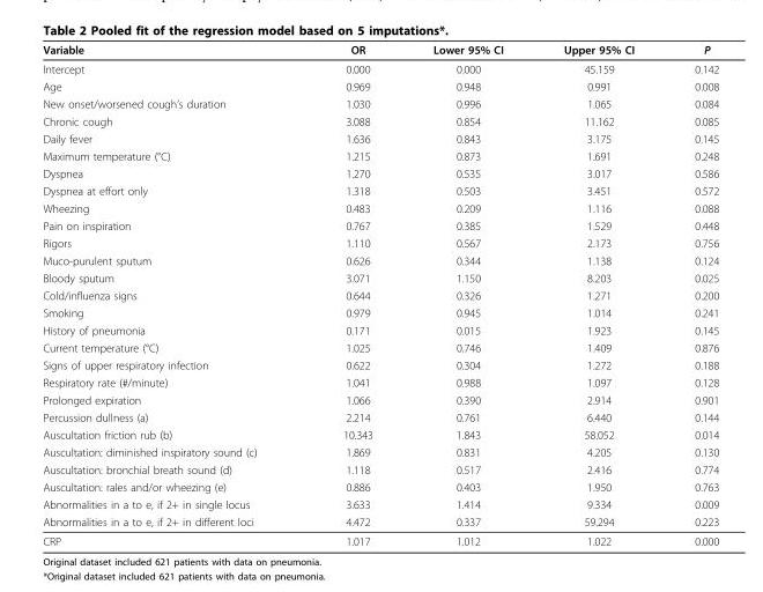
<table><thead><tr><td>Variable</td><td>OR</td><td>Lower 95% CI</td><td>Upper 95% CI</td><td>P</td></tr></thead><tbody><tr><td>Intercept</td><td>0.000</td><td>0.000</td><td>45.159</td><td>0.142</td></tr><tr><td>Age</td><td>0.969</td><td>0.948</td><td>0.991</td><td>0.008</td></tr><tr><td>New onset/worsened cough’s duration</td><td>1.030</td><td>0.996</td><td>1.065</td><td>0.084</td></tr><tr><td>Chronic cough</td><td>3.088</td><td>0.854</td><td>11.162</td><td>0.085</td></tr><tr><td>Daily fever</td><td>1.636</td><td>0.843</td><td>3.175</td><td>0.145</td></tr><tr><td>Maximum temperature (°C)</td><td>1.215</td><td>0.873</td><td>1.691</td><td>0.248</td></tr><tr><td>Dyspnea</td><td>1.270</td><td>0.535</td><td>3.017</td><td>0.586</td></tr><tr><td>Dyspnea at effort only</td><td>1.318</td><td>0.503</td><td>3.451</td><td>0.572</td></tr><tr><td>Wheezing</td><td>0.483</td><td>0.209</td><td>1.116</td><td>0.088</td></tr><tr><td>Pain on inspiration</td><td>0.767</td><td>0.385</td><td>1.529</td><td>0.448</td></tr><tr><td>Rigors</td><td>1.110</td><td>0.567</td><td>2.173</td><td>0.756</td></tr><tr><td>Muco-purulent sputum</td><td>0.626</td><td>0.344</td><td>1.138</td><td>0.124</td></tr><tr><td>Bloody sputum</td><td>3.071</td><td>1.150</td><td>8.203</td><td>0.025</td></tr><tr><td>Cold/influenza signs</td><td>0.644</td><td>0.326</td><td>1.271</td><td>0.200</td></tr><tr><td>Smoking</td><td>0.979</td><td>0.945</td><td>1.014</td><td>0.241</td></tr><tr><td>History of pneumonia</td><td>0.171</td><td>0.015</td><td>1.923</td><td>0.145</td></tr><tr><td>Current temperature (°C)</td><td>1.025</td><td>0.746</td><td>1.409</td><td>0.876</td></tr><tr><td>Signs of upper respiratory infection</td><td>0.622</td><td>0.304</td><td>1.272</td><td>0.188</td></tr><tr><td>Respiratory rate (#/minute)</td><td>1.041</td><td>0.988</td><td>1.097</td><td>0.128</td></tr><tr><td>Prolonged expiration</td><td>1.066</td><td>0.390</td><td>2.914</td><td>0.901</td></tr><tr><td>Percussion dullness (a)</td><td>2.214</td><td>0.761</td><td>6.440</td><td>0.144</td></tr><tr><td>Auscultation friction rub (b)</td><td>10.343</td><td>1.843</td><td>58.052</td><td>0.014</td></tr><tr><td>Auscultation: diminished inspiratory sound (c)</td><td>1.869</td><td>0.831</td><td>4.205</td><td>0.130</td></tr><tr><td>Auscultation: bronchial breath sound (d)</td><td>1.118</td><td>0.517</td><td>2.416</td><td>0.774</td></tr><tr><td>Auscultation: rales and/or wheezing (e)</td><td>0.886</td><td>0.403</td><td>1.950</td><td>0.763</td></tr><tr><td>Abnormalities in a to e, if 2+ in single locus</td><td>3.633</td><td>1.414</td><td>9.334</td><td>0.009</td></tr><tr><td>Abnormalities in a to e, if 2+ in different loci</td><td>4.472</td><td>0.337</td><td>59.294</td><td>0.223</td></tr><tr><td>CRP</td><td>1.017</td><td>1.012</td><td>1.022</td><td>0.000</td></tr></tbody></table>